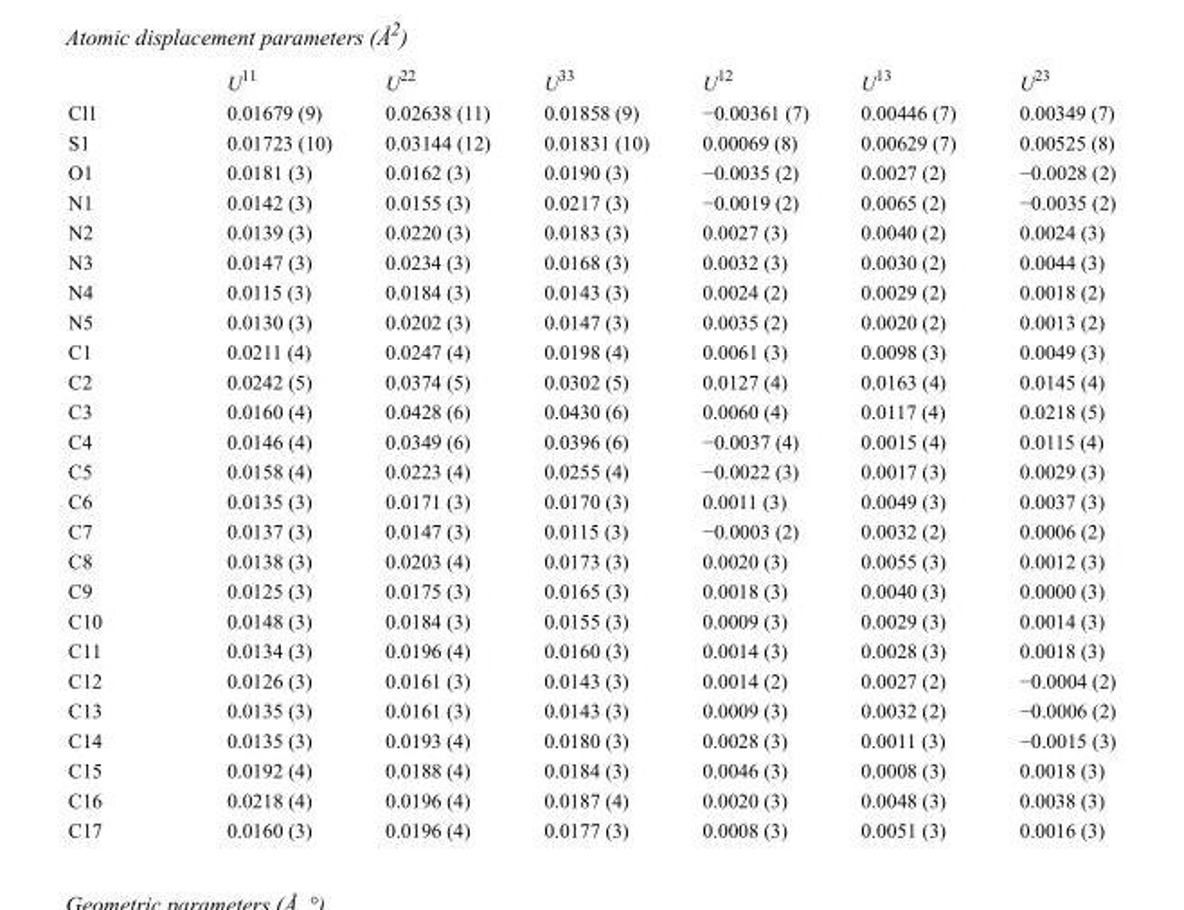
<table><thead><tr><td></td><td>U<sup>11</sup></td><td>U<sup>22</sup></td><td>U<sup>33</sup></td><td>U<sup>12</sup></td><td>U<sup>13</sup></td><td>U<sup>23</sup></td></tr></thead><tbody><tr><td>Cl1</td><td>0.01679 (9)</td><td>0.02638 (11)</td><td>0.01858 (9)</td><td>−0.00361 (7)</td><td>0.00446 (7)</td><td>0.00349 (7)</td></tr><tr><td>S1</td><td>0.01723 (10)</td><td>0.03144 (12)</td><td>0.01831 (10)</td><td>0.00069 (8)</td><td>0.00629 (7)</td><td>0.00525 (8)</td></tr><tr><td>O1</td><td>0.0181 (3)</td><td>0.0162 (3)</td><td>0.0190 (3)</td><td>−0.0035 (2)</td><td>0.0027 (2)</td><td>−0.0028 (2)</td></tr><tr><td>N1</td><td>0.0142 (3)</td><td>0.0155 (3)</td><td>0.0217 (3)</td><td>−0.0019 (2)</td><td>0.0065 (2)</td><td>−0.0035 (2)</td></tr><tr><td>N2</td><td>0.0139 (3)</td><td>0.0220 (3)</td><td>0.0183 (3)</td><td>0.0027 (3)</td><td>0.0040 (2)</td><td>0.0024 (3)</td></tr><tr><td>N3</td><td>0.0147 (3)</td><td>0.0234 (3)</td><td>0.0168 (3)</td><td>0.0032 (3)</td><td>0.0030 (2)</td><td>0.0044 (3)</td></tr><tr><td>N4</td><td>0.0115 (3)</td><td>0.0184 (3)</td><td>0.0143 (3)</td><td>0.0024 (2)</td><td>0.0029 (2)</td><td>0.0018 (2)</td></tr><tr><td>N5</td><td>0.0130 (3)</td><td>0.0202 (3)</td><td>0.0147 (3)</td><td>0.0035 (2)</td><td>0.0020 (2)</td><td>0.0013 (2)</td></tr><tr><td>C1</td><td>0.0211 (4)</td><td>0.0247 (4)</td><td>0.0198 (4)</td><td>0.0061 (3)</td><td>0.0098 (3)</td><td>0.0049 (3)</td></tr><tr><td>C2</td><td>0.0242 (5)</td><td>0.0374 (5)</td><td>0.0302 (5)</td><td>0.0127 (4)</td><td>0.0163 (4)</td><td>0.0145 (4)</td></tr><tr><td>C3</td><td>0.0160 (4)</td><td>0.0428 (6)</td><td>0.0430 (6)</td><td>0.0060 (4)</td><td>0.0117 (4)</td><td>0.0218 (5)</td></tr><tr><td>C4</td><td>0.0146 (4)</td><td>0.0349 (6)</td><td>0.0396 (6)</td><td>−0.0037 (4)</td><td>0.0015 (4)</td><td>0.0115 (4)</td></tr><tr><td>C5</td><td>0.0158 (4)</td><td>0.0223 (4)</td><td>0.0255 (4)</td><td>−0.0022 (3)</td><td>0.0017 (3)</td><td>0.0029 (3)</td></tr><tr><td>C6</td><td>0.0135 (3)</td><td>0.0171 (3)</td><td>0.0170 (3)</td><td>0.0011 (3)</td><td>0.0049 (3)</td><td>0.0037 (3)</td></tr><tr><td>C7</td><td>0.0137 (3)</td><td>0.0147 (3)</td><td>0.0115 (3)</td><td>−0.0003 (2)</td><td>0.0032 (2)</td><td>0.0006 (2)</td></tr><tr><td>C8</td><td>0.0138 (3)</td><td>0.0203 (4)</td><td>0.0173 (3)</td><td>0.0020 (3)</td><td>0.0055 (3)</td><td>0.0012 (3)</td></tr><tr><td>C9</td><td>0.0125 (3)</td><td>0.0175 (3)</td><td>0.0165 (3)</td><td>0.0018 (3)</td><td>0.0040 (3)</td><td>0.0000 (3)</td></tr><tr><td>C10</td><td>0.0148 (3)</td><td>0.0184 (3)</td><td>0.0155 (3)</td><td>0.0009 (3)</td><td>0.0029 (3)</td><td>0.0014 (3)</td></tr><tr><td>C11</td><td>0.0134 (3)</td><td>0.0196 (4)</td><td>0.0160 (3)</td><td>0.0014 (3)</td><td>0.0028 (3)</td><td>0.0018 (3)</td></tr><tr><td>C12</td><td>0.0126 (3)</td><td>0.0161 (3)</td><td>0.0143 (3)</td><td>0.0014 (2)</td><td>0.0027 (2)</td><td>−0.0004 (2)</td></tr><tr><td>C13</td><td>0.0135 (3)</td><td>0.0161 (3)</td><td>0.0143 (3)</td><td>0.0009 (3)</td><td>0.0032 (2)</td><td>−0.0006 (2)</td></tr><tr><td>C14</td><td>0.0135 (3)</td><td>0.0193 (4)</td><td>0.0180 (3)</td><td>0.0028 (3)</td><td>0.0011 (3)</td><td>−0.0015 (3)</td></tr><tr><td>C15</td><td>0.0192 (4)</td><td>0.0188 (4)</td><td>0.0184 (3)</td><td>0.0046 (3)</td><td>0.0008 (3)</td><td>0.0018 (3)</td></tr><tr><td>C16</td><td>0.0218 (4)</td><td>0.0196 (4)</td><td>0.0187 (4)</td><td>0.0020 (3)</td><td>0.0048 (3)</td><td>0.0038 (3)</td></tr><tr><td>C17</td><td>0.0160 (3)</td><td>0.0196 (4)</td><td>0.0177 (3)</td><td>0.0008 (3)</td><td>0.0051 (3)</td><td>0.0016 (3)</td></tr></tbody></table>